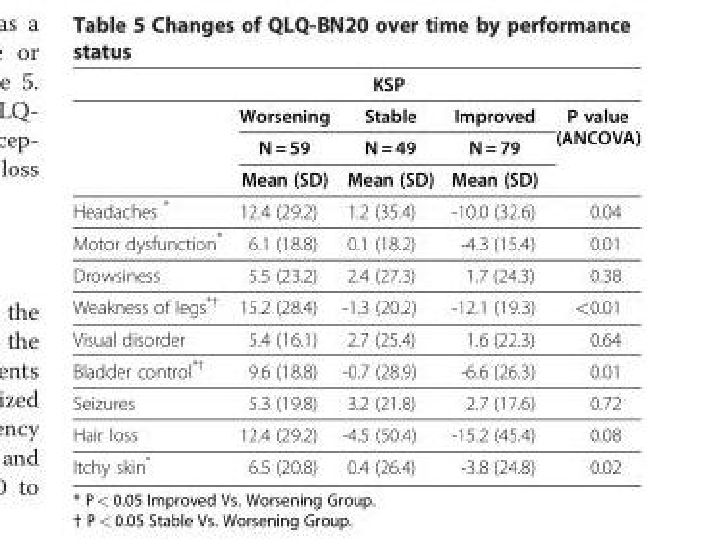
<table><thead><tr><td rowspan="4"></td><td colspan="3">KSP</td><td rowspan="4">P value (ANCOVA)</td></tr><tr><td rowspan="3">Worsening N = 59 Mean (SD)</td><td rowspan="3">Stable N = 49 Mean (SD)</td><td rowspan="3">Improved N = 79 Mean (SD)</td></tr><tr></tr><tr></tr></thead><tbody><tr><td>Headaches *</td><td>12.4 (29.2)</td><td>1.2 (35.4)</td><td>-10.0 (32.6)</td><td>0.04</td></tr><tr><td>Motor dysfunction*</td><td>6.1 (18.8)</td><td>0.1 (18.2)</td><td>-4.3 (15.4)</td><td>0.01</td></tr><tr><td>Drowsiness</td><td>5.5 (23.2)</td><td>2.4 (27.3)</td><td>1.7 (24.3)</td><td>0.38</td></tr><tr><td>Weakness of legs<sup>*†</sup></td><td>15.2 (28.4)</td><td>-1.3 (20.2)</td><td>-12.1 (19.3)</td><td>&lt;0.01</td></tr><tr><td>Visual disorder</td><td>5.4 (16.1)</td><td>2.7 (25.4)</td><td>1.6 (22.3)</td><td>0.64</td></tr><tr><td>Bladder control<sup>*†</sup></td><td>9.6 (18.8)</td><td>-0.7 (28.9)</td><td>-6.6 (26.3)</td><td>0.01</td></tr><tr><td>Seizures</td><td>5.3 (19.8)</td><td>3.2 (21.8)</td><td>2.7 (17.6)</td><td>0.72</td></tr><tr><td>Hair loss</td><td>12.4 (29.2)</td><td>-4.5 (50.4)</td><td>-15.2 (45.4)</td><td>0.08</td></tr><tr><td>Itchy skin*</td><td>6.5 (20.8)</td><td>0.4 (26.4)</td><td>-3.8 (24.8)</td><td>0.02</td></tr></tbody></table>